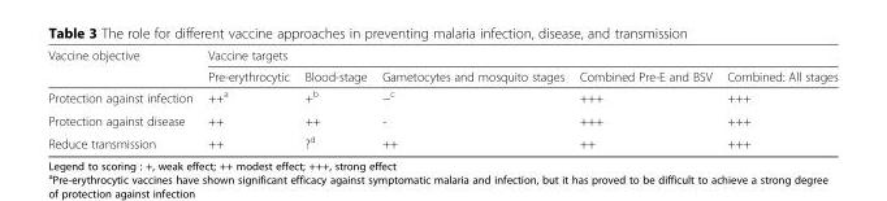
<table><thead><tr><td rowspan="2">Vaccine objective</td><td colspan="5">Vaccine targets</td></tr><tr><td>Pre-erythrocytic</td><td>Blood-stage</td><td>Gametocytes and mosquito stages</td><td>Combined Pre-E and BSV</td><td>Combined: All stages</td></tr></thead><tbody><tr><td>Protection against infection</td><td>++<sup>a</sup></td><td>+<sup>b</sup></td><td>−<sup>c</sup></td><td>+++</td><td>+++</td></tr><tr><td>Protection against disease</td><td>++</td><td>++</td><td>-</td><td>+++</td><td>+++</td></tr><tr><td>Reduce transmission</td><td>++</td><td>?<sup>d</sup></td><td>++</td><td>++</td><td>+++</td></tr></tbody></table>